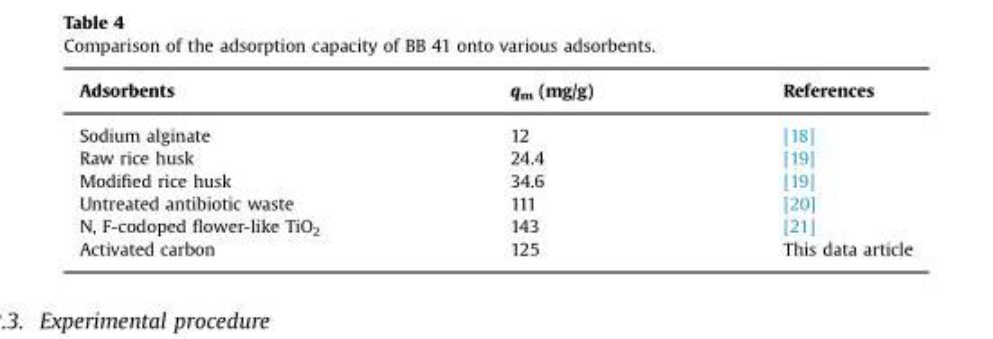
<table><thead><tr><td>Adsorbents</td><td>q<sub>m</sub> (mg/g)</td><td>References</td></tr></thead><tbody><tr><td>Sodium alginate</td><td>12</td><td>[18]</td></tr><tr><td>Raw rice husk</td><td>24.4</td><td>[19]</td></tr><tr><td>Modified rice husk</td><td>34.6</td><td>[19]</td></tr><tr><td>Untreated antibiotic waste</td><td>111</td><td>[20]</td></tr><tr><td>N, F-codoped flower-like TiO<sub>2</sub></td><td>143</td><td>[21]</td></tr><tr><td>Activated carbon</td><td>125</td><td>This data article</td></tr></tbody></table>